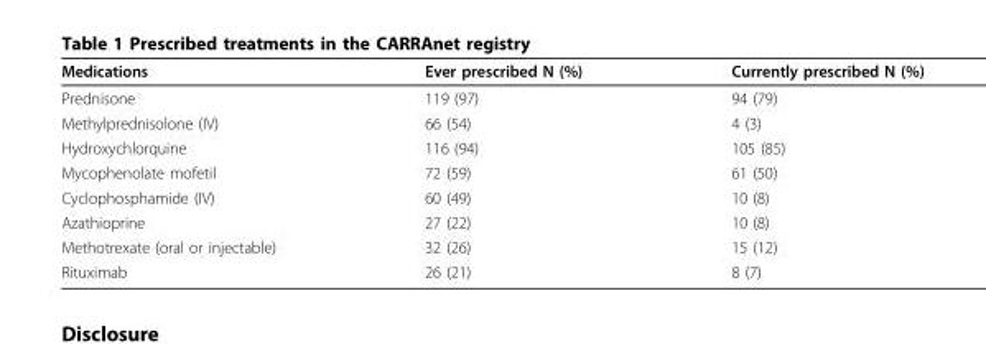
<table><thead><tr><td>Medications</td><td>Ever prescribed N (%)</td><td>Currently prescribed N (%)</td></tr></thead><tbody><tr><td>Prednisone</td><td>119 (97)</td><td>94 (79)</td></tr><tr><td>Methylprednisolone (IV)</td><td>66 (54)</td><td>4 (3)</td></tr><tr><td>Hydroxychlorquine</td><td>116 (94)</td><td>105 (85)</td></tr><tr><td>Mycophenolate mofetil</td><td>72 (59)</td><td>61 (50)</td></tr><tr><td>Cyclophosphamide (IV)</td><td>60 (49)</td><td>10 (8)</td></tr><tr><td>Azathioprine</td><td>27 (22)</td><td>10 (8)</td></tr><tr><td>Methotrexate (oral or injectable)</td><td>32 (26)</td><td>15 (12)</td></tr><tr><td>Rituximab</td><td>26 (21)</td><td>8 (7)</td></tr></tbody></table>